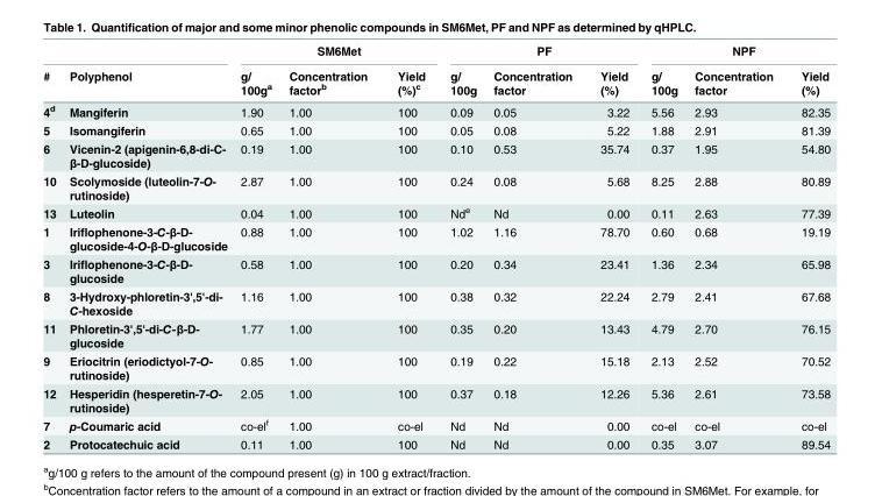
<table><thead><tr><td rowspan="2">#</td><td rowspan="2">Polyphenol</td><td colspan="3">SM6Met</td><td colspan="3">PF</td><td colspan="3">NPF</td></tr><tr><td>g/ 100g<sup>a</sup></td><td>Concentration factor<sup>b</sup></td><td>Yield (%)<sup>c</sup></td><td>g/ 100g</td><td>Concentration factor</td><td>Yield (%)</td><td>g/ 100g</td><td>Concentration factor</td><td>Yield (%)</td></tr></thead><tbody><tr><td>4<sup>d</sup></td><td>Mangiferin</td><td>1.90</td><td>1.00</td><td>100</td><td>0.09</td><td>0.05</td><td>3.22</td><td>5.56</td><td>2.93</td><td>82.35</td></tr><tr><td>5</td><td>Isomangiferin</td><td>0.65</td><td>1.00</td><td>100</td><td>0.05</td><td>0.08</td><td>5.22</td><td>1.88</td><td>2.91</td><td>81.39</td></tr><tr><td>6</td><td>Vicenin-2 (apigenin-6,8-di-C- β-D-glucoside)</td><td>0.19</td><td>1.00</td><td>100</td><td>0.10</td><td>0.53</td><td>35.74</td><td>0.37</td><td>1.95</td><td>54.80</td></tr><tr><td>10</td><td>Scolymoside (luteolin-7-O- rutinoside)</td><td>2.87</td><td>1.00</td><td>100</td><td>0.24</td><td>0.08</td><td>5.68</td><td>8.25</td><td>2.88</td><td>80.89</td></tr><tr><td>13</td><td>Luteolin</td><td>0.04</td><td>1.00</td><td>100</td><td>Nd<sup>e</sup></td><td>Nd</td><td>0.00</td><td>0.11</td><td>2.63</td><td>77.39</td></tr><tr><td>1</td><td>Iriflophenone-3-C-β-D- glucoside-4-O-β-D-glucoside</td><td>0.88</td><td>1.00</td><td>100</td><td>1.02</td><td>1.16</td><td>78.70</td><td>0.60</td><td>0.68</td><td>19.19</td></tr><tr><td>3</td><td>Iriflophenone-3-C-β-D- glucoside</td><td>0.58</td><td>1.00</td><td>100</td><td>0.20</td><td>0.34</td><td>23.41</td><td>1.36</td><td>2.34</td><td>65.98</td></tr><tr><td>8</td><td>3-Hydroxy-phloretin-3&#x27;,5&#x27;-di- C-hexoside</td><td>1.16</td><td>1.00</td><td>100</td><td>0.38</td><td>0.32</td><td>22.24</td><td>2.79</td><td>2.41</td><td>67.68</td></tr><tr><td>11</td><td>Phloretin-3&#x27;,5&#x27;-di-C-β-D- glucoside</td><td>1.77</td><td>1.00</td><td>100</td><td>0.35</td><td>0.20</td><td>13.43</td><td>4.79</td><td>2.70</td><td>76.15</td></tr><tr><td>9</td><td>Eriocitrin (eriodictyol-7-O- rutinoside)</td><td>0.85</td><td>1.00</td><td>100</td><td>0.19</td><td>0.22</td><td>15.18</td><td>2.13</td><td>2.52</td><td>70.52</td></tr><tr><td>12</td><td>Hesperidin (hesperetin-7-O- rutinoside)</td><td>2.05</td><td>1.00</td><td>100</td><td>0.37</td><td>0.18</td><td>12.26</td><td>5.36</td><td>2.61</td><td>73.58</td></tr><tr><td>7</td><td>p-Coumaric acid</td><td>co-el<sup>f</sup></td><td>1.00</td><td>co-el</td><td>Nd</td><td>Nd</td><td>0.00</td><td>co-el</td><td>co-el</td><td>co-el</td></tr><tr><td>2</td><td>Protocatechuic acid</td><td>0.11</td><td>1.00</td><td>100</td><td>Nd</td><td>Nd</td><td>0.00</td><td>0.35</td><td>3.07</td><td>89.54</td></tr></tbody></table>